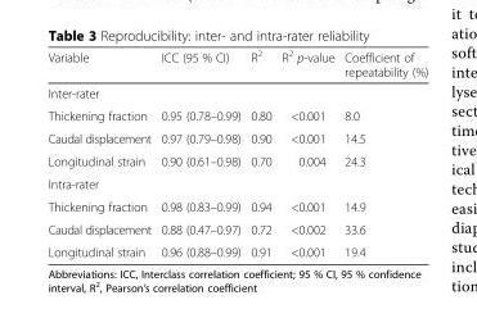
<table><thead><tr><td>Variable</td><td>ICC (95 % CI)</td><td>R<sup>2</sup></td><td>R<sup>2</sup> p-value</td><td>Coefficient of repeatability (%)</td></tr></thead><tbody><tr><td colspan="5">Inter-rater</td></tr><tr><td>Thickening fraction</td><td>0.95 (0.78–0.99)</td><td>0.80</td><td>&lt;0.001</td><td>8.0</td></tr><tr><td>Caudal displacement</td><td>0.97 (0.79–0.98)</td><td>0.90</td><td>&lt;0.001</td><td>14.5</td></tr><tr><td>Longitudinal strain</td><td>0.90 (0.61–0.98)</td><td>0.70</td><td>0.004</td><td>24.3</td></tr><tr><td colspan="5">Intra-rater</td></tr><tr><td>Thickening fraction</td><td>0.98 (0.83–0.99)</td><td>0.94</td><td>&lt;0.001</td><td>14.9</td></tr><tr><td>Caudal displacement</td><td>0.88 (0.47–0.97)</td><td>0.72</td><td>&lt;0.002</td><td>33.6</td></tr><tr><td>Longitudinal strain</td><td>0.96 (0.88–0.99)</td><td>0.91</td><td>&lt;0.001</td><td>19.4</td></tr></tbody></table>